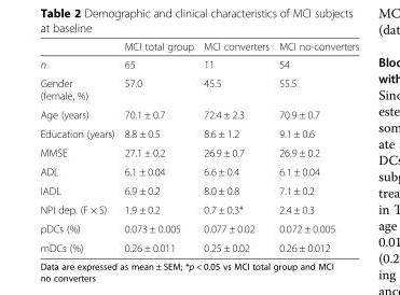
<table><thead><tr><td></td><td>MCI total group</td><td>MCI converters</td><td>MCI no-converters</td></tr></thead><tbody><tr><td>n</td><td>65</td><td>11</td><td>54</td></tr><tr><td>Gender (female, %)</td><td>57.0</td><td>45.5</td><td>55.5</td></tr><tr><td>Age (years)</td><td>70.1 ± 0.7</td><td>72.4 ± 2.3</td><td>70.9 ± 0.7</td></tr><tr><td>Education (years)</td><td>8.8 ± 0.5</td><td>8.6 ± 1.2</td><td>9.1 ± 0.6</td></tr><tr><td>MMSE</td><td>27.1 ± 0.2</td><td>26.9 ± 0.7</td><td>26.9 ± 0.2</td></tr><tr><td>ADL</td><td>6.1 ± 0.04</td><td>6.6 ± 0.4</td><td>6.1 ± 0.04</td></tr><tr><td>IADL</td><td>6.9 ± 0.2</td><td>8.0 ± 0.8</td><td>7.1 ± 0.2</td></tr><tr><td>NPI dep. (F × S)</td><td>1.9 ± 0.2</td><td>0.7 ± 0.3*</td><td>2.4 ± 0.3</td></tr><tr><td>pDCs (%)</td><td>0.073 ± 0.005</td><td>0.077 ± 0.02</td><td>0.072 ± 0.005</td></tr><tr><td>mDCs (%)</td><td>0.26 ± 0.011</td><td>0.25 ± 0.02</td><td>0.26 ± 0.012</td></tr></tbody></table>